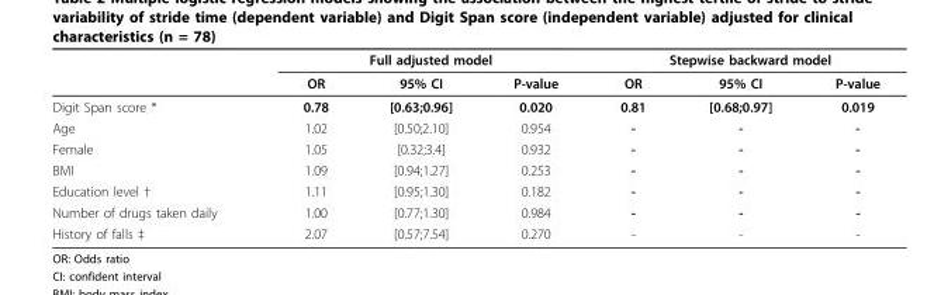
<table><thead><tr><td rowspan="2"></td><td colspan="3">Full adjusted model</td><td colspan="3">Stepwise backward model</td></tr><tr><td>OR</td><td>95% CI</td><td>P-value</td><td>OR</td><td>95% CI</td><td>P-value</td></tr></thead><tbody><tr><td>Digit Span score *</td><td>0.78</td><td>[0.63;0.96]</td><td>0.020</td><td>0.81</td><td>[0.68;0.97]</td><td>0.019</td></tr><tr><td>Age</td><td>1.02</td><td>[0.50;2.10]</td><td>0.954</td><td>-</td><td>-</td><td>-</td></tr><tr><td>Female</td><td>1.05</td><td>[0.32;3.4]</td><td>0.932</td><td>-</td><td>-</td><td>-</td></tr><tr><td>BMI</td><td>1.09</td><td>[0.94;1.27]</td><td>0.253</td><td>-</td><td>-</td><td>-</td></tr><tr><td>Education level †</td><td>1.11</td><td>[0.95;1.30]</td><td>0.182</td><td>-</td><td>-</td><td>-</td></tr><tr><td>Number of drugs taken daily</td><td>1.00</td><td>[0.77;1.30]</td><td>0.984</td><td>-</td><td>-</td><td>-</td></tr><tr><td>History of falls ‡</td><td>2.07</td><td>[0.57;7.54]</td><td>0.270</td><td>-</td><td>-</td><td>-</td></tr></tbody></table>